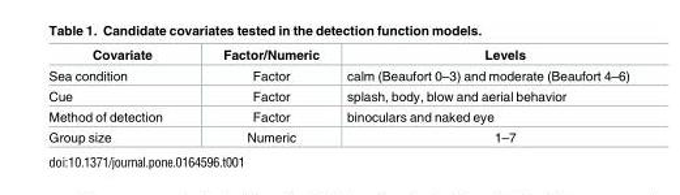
<table><thead><tr><td>Covariate</td><td>Factor/Numeric</td><td>Levels</td></tr></thead><tbody><tr><td>Sea condition</td><td>Factor</td><td>calm (Beaufort 0–3) and moderate (Beaufort 4–6)</td></tr><tr><td>Cue</td><td>Factor</td><td>splash, body, blow and aerial behavior</td></tr><tr><td>Method of detection</td><td>Factor</td><td>binoculars and naked eye</td></tr><tr><td>Group size</td><td>Numeric</td><td>1–7</td></tr></tbody></table>